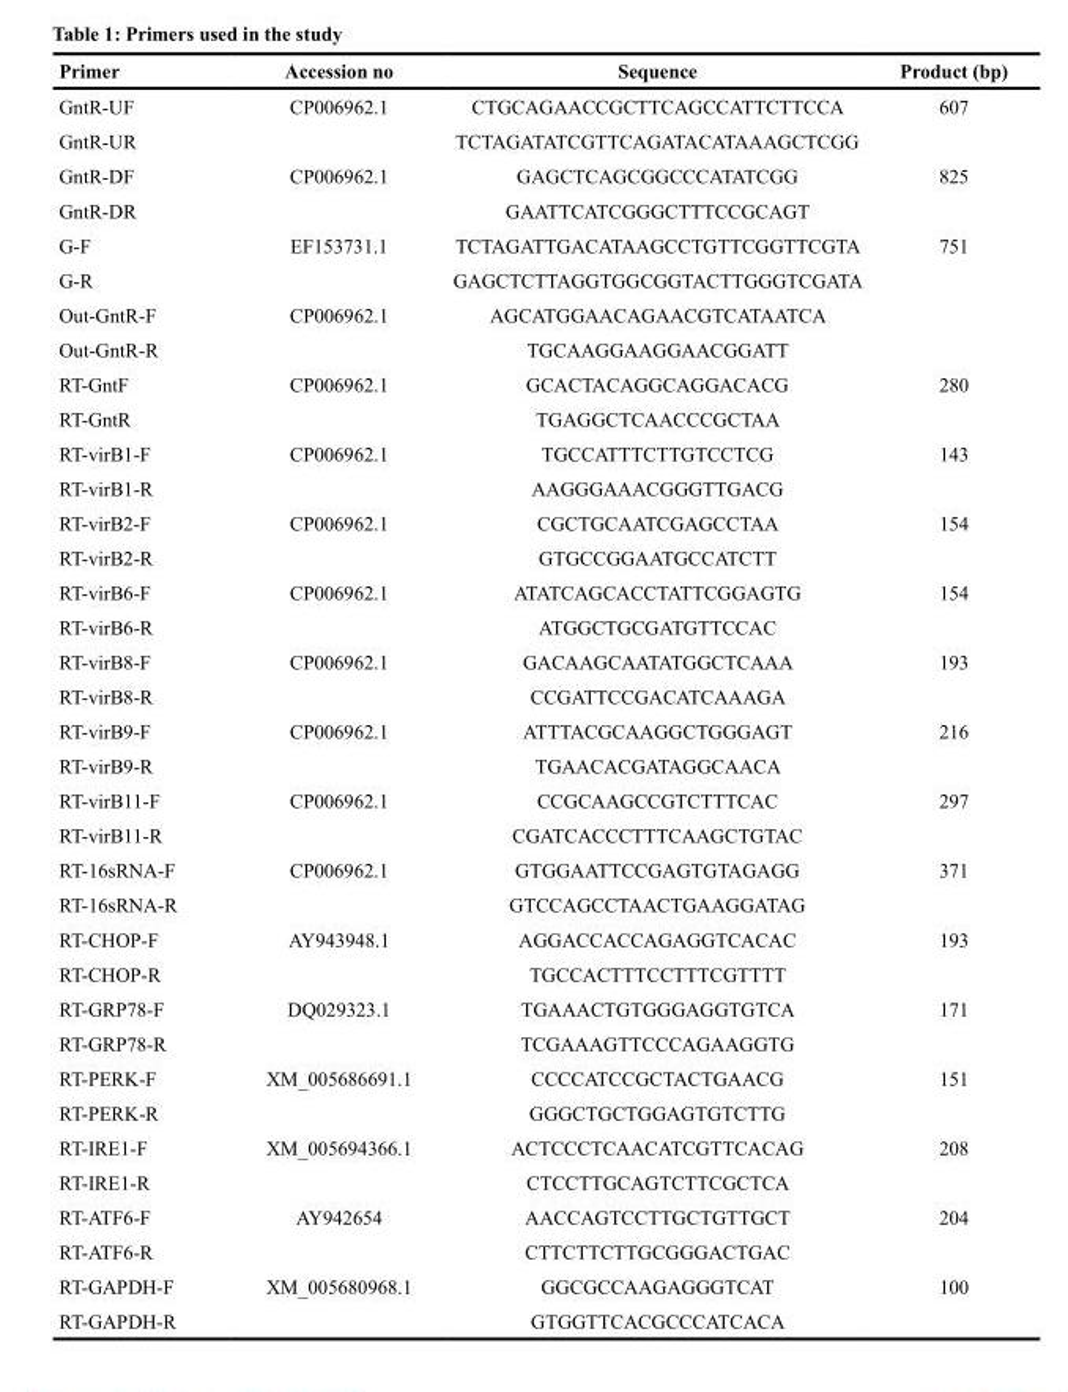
<table><thead><tr><td>Primer</td><td>Accession no</td><td>Sequence</td><td>Product (bp)</td></tr></thead><tbody><tr><td>GntR-UF</td><td>CP006962.1</td><td>CTGCAGAACCGCTTCAGCCATTCTTCCA</td><td>607</td></tr><tr><td>GntR-UR</td><td></td><td>TCTAGATATCGTTCAGATACATAAAGCTCGG</td><td></td></tr><tr><td>GntR-DF</td><td>CP006962.1</td><td>GAGCTCAGCGGCCCATATCGG</td><td>825</td></tr><tr><td>GntR-DR</td><td></td><td>GAATTCATCGGGCTTTCCGCAGT</td><td></td></tr><tr><td>G-F</td><td>EF153731.1</td><td>TCTAGATTGACATAAGCCTGTTCGGTTCGTA</td><td>751</td></tr><tr><td>G-R</td><td></td><td>GAGCTCTTAGGTGGCGGTACTTGGGTCGATA</td><td></td></tr><tr><td>Out-GntR-F</td><td>CP006962.1</td><td>AGCATGGAACAGAACGTCATAATCA</td><td></td></tr><tr><td>Out-GntR-R</td><td></td><td>TGCAAGGAAGGAACGGATT</td><td></td></tr><tr><td>RT-GntF</td><td>CP006962.1</td><td>GCACTACAGGCAGGACACG</td><td>280</td></tr><tr><td>RT-GntR</td><td></td><td>TGAGGCTCAACCCGCTAA</td><td></td></tr><tr><td>RT-virB1-F</td><td>CP006962.1</td><td>TGCCATTTCTTGTCCTCG</td><td>143</td></tr><tr><td>RT-virB1-R</td><td></td><td>AAGGGAAACGGGTTGACG</td><td></td></tr><tr><td>RT-virB2-F</td><td>CP006962.1</td><td>CGCTGCAATCGAGCCTAA</td><td>154</td></tr><tr><td>RT-virB2-R</td><td></td><td>GTGCCGGAATGCCATCTT</td><td></td></tr><tr><td>RT-virB6-F</td><td>CP006962.1</td><td>ATATCAGCACCTATTCGGAGTG</td><td>154</td></tr><tr><td>RT-virB6-R</td><td></td><td>ATGGCTGCGATGTTCCAC</td><td></td></tr><tr><td>RT-virB8-F</td><td>CP006962.1</td><td>GACAAGCAATATGGCTCAAA</td><td>193</td></tr><tr><td>RT-virB8-R</td><td></td><td>CCGATTCCGACATCAAAGA</td><td></td></tr><tr><td>RT-virB9-F</td><td>CP006962.1</td><td>ATTTACGCAAGGCTGGGAGT</td><td>216</td></tr><tr><td>RT-virB9-R</td><td></td><td>TGAACACGATAGGCAACA</td><td></td></tr><tr><td>RT-virB11-F</td><td>CP006962.1</td><td>CCGCAAGCCGTCTTTCAC</td><td>297</td></tr><tr><td>RT-virB11-R</td><td></td><td>CGATCACCCTTTCAAGCTGTAC</td><td></td></tr><tr><td>RT-16sRNA-F</td><td>CP006962.1</td><td>GTGGAATTCCGAGTGTAGAGG</td><td>371</td></tr><tr><td>RT-16sRNA-R</td><td></td><td>GTCCAGCCTAACTGAAGGATAG</td><td></td></tr><tr><td>RT-CHOP-F</td><td>AY943948.1</td><td>AGGACCACCAGAGGTCACAC</td><td>193</td></tr><tr><td>RT-CHOP-R</td><td></td><td>TGCCACTTTCCTTTCGTTTT</td><td></td></tr><tr><td>RT-GRP78-F</td><td>DQ029323.1</td><td>TGAAACTGTGGGAGGTGTCA</td><td>171</td></tr><tr><td>RT-GRP78-R</td><td></td><td>TCGAAAGTTCCCAGAAGGTG</td><td></td></tr><tr><td>RT-PERK-F</td><td>XM_005686691.1</td><td>CCCCATCCGCTACTGAACG</td><td>151</td></tr><tr><td>RT-PERK-R</td><td></td><td>GGGCTGCTGGAGTGTCTTG</td><td></td></tr><tr><td>RT-IRE1-F</td><td>XM_005694366.1</td><td>ACTCCCTCAACATCGTTCACAG</td><td>208</td></tr><tr><td>RT-IRE1-R</td><td></td><td>CTCCTTGCAGTCTTCGCTCA</td><td></td></tr><tr><td>RT-ATF6-F</td><td>AY942654</td><td>AACCAGTCCTTGCTGTTGCT</td><td>204</td></tr><tr><td>RT-ATF6-R</td><td></td><td>CTTCTTCTTGCGGGACTGAC</td><td></td></tr><tr><td>RT-GAPDH-F</td><td>XM_005680968.1</td><td>GGCGCCAAGAGGGTCAT</td><td>100</td></tr><tr><td>RT-GAPDH-R</td><td></td><td>GTGGTTCACGCCCATCACA</td><td></td></tr></tbody></table>